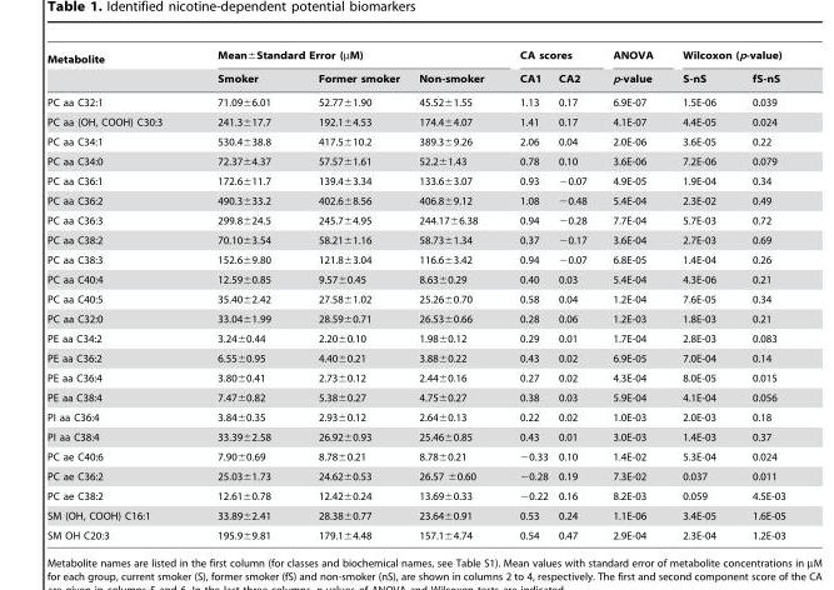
<table><thead><tr><td rowspan="2">Metabolite</td><td colspan="3">Mean±Standard Error (µM)</td><td colspan="2">CA scores</td><td rowspan="2">ANOVA p-value</td><td colspan="2">Wilcoxon (p-value)</td></tr><tr><td>Smoker</td><td>Former smoker</td><td>Non-smoker</td><td>CA1</td><td>CA2</td><td>S-nS</td><td>fS-nS</td></tr></thead><tbody><tr><td>PC aa C32:1</td><td>71.09±6.01</td><td>52.77±1.90</td><td>45.52±1.55</td><td>1.13</td><td>0.17</td><td>6.9E-07</td><td>1.5E-06</td><td>0.039</td></tr><tr><td>PC aa (OH, COOH) C30:3</td><td>241.3±17.7</td><td>192.1±4.53</td><td>174.4±4.07</td><td>1.41</td><td>0.17</td><td>4.1E-07</td><td>4.4E-05</td><td>0.024</td></tr><tr><td>PC aa C34:1</td><td>530.4±38.8</td><td>417.5±10.2</td><td>389.3±9.26</td><td>2.06</td><td>0.04</td><td>2.0E-06</td><td>3.6E-05</td><td>0.22</td></tr><tr><td>PC aa C34:0</td><td>72.37±4.37</td><td>57.57±1.61</td><td>52.2±1.43</td><td>0.78</td><td>0.10</td><td>3.6E-06</td><td>7.2E-06</td><td>0.079</td></tr><tr><td>PC aa C36:1</td><td>172.6±11.7</td><td>139.4±3.34</td><td>133.6±3.07</td><td>0.93</td><td>−0.07</td><td>4.9E-05</td><td>1.9E-04</td><td>0.34</td></tr><tr><td>PC aa C36:2</td><td>490.3±33.2</td><td>402.6±8.56</td><td>406.8±9.12</td><td>1.08</td><td>−0.48</td><td>5.4E-04</td><td>2.3E-02</td><td>0.49</td></tr><tr><td>PC aa C36:3</td><td>299.8±24.5</td><td>245.7±4.95</td><td>244.17±6.38</td><td>0.94</td><td>−0.28</td><td>7.7E-04</td><td>5.7E-03</td><td>0.72</td></tr><tr><td>PC aa C38:2</td><td>70.10±3.54</td><td>58.21±1.16</td><td>58.73±1.34</td><td>0.37</td><td>−0.17</td><td>3.6E-04</td><td>2.7E-03</td><td>0.69</td></tr><tr><td>PC aa C38:3</td><td>152.6±9.80</td><td>121.8±3.04</td><td>116.6±3.42</td><td>0.94</td><td>−0.07</td><td>6.8E-05</td><td>1.4E-04</td><td>0.26</td></tr><tr><td>PC aa C40:4</td><td>12.59±0.85</td><td>9.57±0.45</td><td>8.63±0.29</td><td>0.40</td><td>0.03</td><td>5.4E-04</td><td>4.3E-06</td><td>0.21</td></tr><tr><td>PC aa C40:5</td><td>35.40±2.42</td><td>27.58±1.02</td><td>25.26±0.70</td><td>0.58</td><td>0.04</td><td>1.2E-04</td><td>7.6E-05</td><td>0.34</td></tr><tr><td>PC aa C32:0</td><td>33.04±1.99</td><td>28.59±0.71</td><td>26.53±0.66</td><td>0.28</td><td>0.06</td><td>1.2E-03</td><td>1.8E-03</td><td>0.21</td></tr><tr><td>PE aa C34:2</td><td>3.24±0.44</td><td>2.20±0.10</td><td>1.98±0.12</td><td>0.29</td><td>0.01</td><td>1.7E-04</td><td>2.8E-03</td><td>0.083</td></tr><tr><td>PE aa C36:2</td><td>6.55±0.95</td><td>4.40±0.21</td><td>3.88±0.22</td><td>0.43</td><td>0.02</td><td>6.9E-05</td><td>7.0E-04</td><td>0.14</td></tr><tr><td>PE aa C36:4</td><td>3.80±0.41</td><td>2.73±0.12</td><td>2.44±0.16</td><td>0.27</td><td>0.02</td><td>4.3E-04</td><td>8.0E-05</td><td>0.015</td></tr><tr><td>PE aa C38:4</td><td>7.47±0.82</td><td>5.38±0.27</td><td>4.75±0.27</td><td>0.38</td><td>0.03</td><td>5.9E-04</td><td>4.1E-04</td><td>0.056</td></tr><tr><td>PI aa C36:4</td><td>3.84±0.35</td><td>2.93±0.12</td><td>2.64±0.13</td><td>0.22</td><td>0.02</td><td>1.0E-03</td><td>2.0E-03</td><td>0.18</td></tr><tr><td>PI aa C38:4</td><td>33.39±2.58</td><td>26.92±0.93</td><td>25.46±0.85</td><td>0.43</td><td>0.01</td><td>3.0E-03</td><td>1.4E-03</td><td>0.37</td></tr><tr><td>PC ae C40:6</td><td>7.90±0.69</td><td>8.78±0.21</td><td>8.78±0.21</td><td>−0.33</td><td>0.10</td><td>1.4E-02</td><td>5.3E-04</td><td>0.024</td></tr><tr><td>PC ae C36:2</td><td>25.03±1.73</td><td>24.62±0.53</td><td>26.57 ±0.60</td><td>−0.28</td><td>0.19</td><td>7.3E-02</td><td>0.037</td><td>0.011</td></tr><tr><td>PC ae C38:2</td><td>12.61±0.78</td><td>12.42±0.24</td><td>13.69±0.33</td><td>−0.22</td><td>0.16</td><td>8.2E-03</td><td>0.059</td><td>4.5E-03</td></tr><tr><td>SM (OH, COOH) C16:1</td><td>33.89±2.41</td><td>28.38±0.77</td><td>23.64±0.91</td><td>0.53</td><td>0.24</td><td>1.1E-06</td><td>3.4E-05</td><td>1.6E-05</td></tr><tr><td>SM OH C20:3</td><td>195.9±9.81</td><td>179.1±4.48</td><td>157.1±4.74</td><td>0.54</td><td>0.47</td><td>2.9E-04</td><td>2.3E-04</td><td>1.2E-03</td></tr></tbody></table>